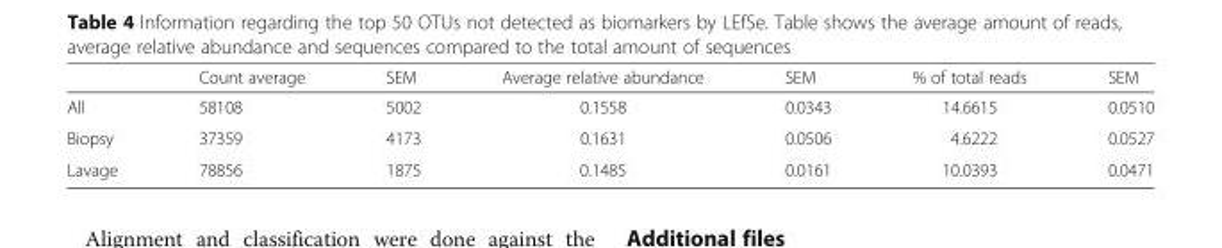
<table><thead><tr><td></td><td>Count average</td><td>SEM</td><td>Average relative abundance</td><td>SEM</td><td>% of total reads</td><td>SEM</td></tr></thead><tbody><tr><td>All</td><td>58108</td><td>5002</td><td>0.1558</td><td>0.0343</td><td>14.6615</td><td>0.0510</td></tr><tr><td>Biopsy</td><td>37359</td><td>4173</td><td>0.1631</td><td>0.0506</td><td>4.6222</td><td>0.0527</td></tr><tr><td>Lavage</td><td>78856</td><td>1875</td><td>0.1485</td><td>0.0161</td><td>10.0393</td><td>0.0471</td></tr></tbody></table>